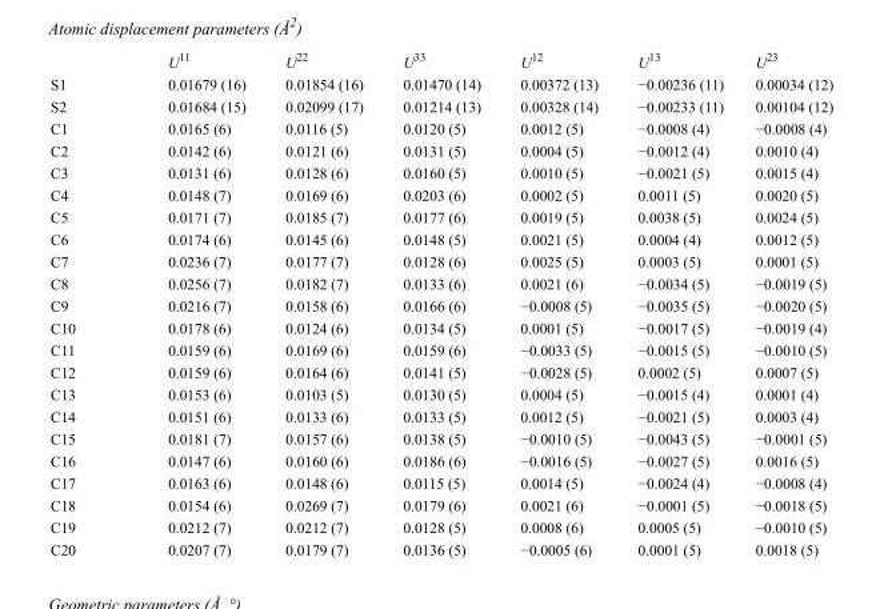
<table><thead><tr><td></td><td>U<sup>11</sup></td><td>U<sup>22</sup></td><td>U<sup>33</sup></td><td>U<sup>12</sup></td><td>U<sup>13</sup></td><td>U<sup>23</sup></td></tr></thead><tbody><tr><td>S1</td><td>0.01679 (16)</td><td>0.01854 (16)</td><td>0.01470 (14)</td><td>0.00372 (13)</td><td>−0.00236 (11)</td><td>0.00034 (12)</td></tr><tr><td>S2</td><td>0.01684 (15)</td><td>0.02099 (17)</td><td>0.01214 (13)</td><td>0.00328 (14)</td><td>−0.00233 (11)</td><td>0.00104 (12)</td></tr><tr><td>C1</td><td>0.0165 (6)</td><td>0.0116 (5)</td><td>0.0120 (5)</td><td>0.0012 (5)</td><td>−0.0008 (4)</td><td>−0.0008 (4)</td></tr><tr><td>C2</td><td>0.0142 (6)</td><td>0.0121 (6)</td><td>0.0131 (5)</td><td>0.0004 (5)</td><td>−0.0012 (4)</td><td>0.0010 (4)</td></tr><tr><td>C3</td><td>0.0131 (6)</td><td>0.0128 (6)</td><td>0.0160 (5)</td><td>0.0010 (5)</td><td>−0.0021 (5)</td><td>0.0015 (4)</td></tr><tr><td>C4</td><td>0.0148 (7)</td><td>0.0169 (6)</td><td>0.0203 (6)</td><td>0.0002 (5)</td><td>0.0011 (5)</td><td>0.0020 (5)</td></tr><tr><td>C5</td><td>0.0171 (7)</td><td>0.0185 (7)</td><td>0.0177 (6)</td><td>0.0019 (5)</td><td>0.0038 (5)</td><td>0.0024 (5)</td></tr><tr><td>C6</td><td>0.0174 (6)</td><td>0.0145 (6)</td><td>0.0148 (5)</td><td>0.0021 (5)</td><td>0.0004 (4)</td><td>0.0012 (5)</td></tr><tr><td>C7</td><td>0.0236 (7)</td><td>0.0177 (7)</td><td>0.0128 (6)</td><td>0.0025 (5)</td><td>0.0003 (5)</td><td>0.0001 (5)</td></tr><tr><td>C8</td><td>0.0256 (7)</td><td>0.0182 (7)</td><td>0.0133 (6)</td><td>0.0021 (6)</td><td>−0.0034 (5)</td><td>−0.0019 (5)</td></tr><tr><td>C9</td><td>0.0216 (7)</td><td>0.0158 (6)</td><td>0.0166 (6)</td><td>−0.0008 (5)</td><td>−0.0035 (5)</td><td>−0.0020 (5)</td></tr><tr><td>C10</td><td>0.0178 (6)</td><td>0.0124 (6)</td><td>0.0134 (5)</td><td>0.0001 (5)</td><td>−0.0017 (5)</td><td>−0.0019 (4)</td></tr><tr><td>C11</td><td>0.0159 (6)</td><td>0.0169 (6)</td><td>0.0159 (6)</td><td>−0.0033 (5)</td><td>−0.0015 (5)</td><td>−0.0010 (5)</td></tr><tr><td>C12</td><td>0.0159 (6)</td><td>0.0164 (6)</td><td>0.0141 (5)</td><td>−0.0028 (5)</td><td>0.0002 (5)</td><td>0.0007 (5)</td></tr><tr><td>C13</td><td>0.0153 (6)</td><td>0.0103 (5)</td><td>0.0130 (5)</td><td>0.0004 (5)</td><td>−0.0015 (4)</td><td>0.0001 (4)</td></tr><tr><td>C14</td><td>0.0151 (6)</td><td>0.0133 (6)</td><td>0.0133 (5)</td><td>0.0012 (5)</td><td>−0.0021 (5)</td><td>0.0003 (4)</td></tr><tr><td>C15</td><td>0.0181 (7)</td><td>0.0157 (6)</td><td>0.0138 (5)</td><td>−0.0010 (5)</td><td>−0.0043 (5)</td><td>−0.0001 (5)</td></tr><tr><td>C16</td><td>0.0147 (6)</td><td>0.0160 (6)</td><td>0.0186 (6)</td><td>−0.0016 (5)</td><td>−0.0027 (5)</td><td>0.0016 (5)</td></tr><tr><td>C17</td><td>0.0163 (6)</td><td>0.0148 (6)</td><td>0.0115 (5)</td><td>0.0014 (5)</td><td>−0.0024 (4)</td><td>−0.0008 (4)</td></tr><tr><td>C18</td><td>0.0154 (6)</td><td>0.0269 (7)</td><td>0.0179 (6)</td><td>0.0021 (6)</td><td>−0.0001 (5)</td><td>−0.0018 (5)</td></tr><tr><td>C19</td><td>0.0212 (7)</td><td>0.0212 (7)</td><td>0.0128 (5)</td><td>0.0008 (6)</td><td>0.0005 (5)</td><td>−0.0010 (5)</td></tr><tr><td>C20</td><td>0.0207 (7)</td><td>0.0179 (7)</td><td>0.0136 (5)</td><td>−0.0005 (6)</td><td>0.0001 (5)</td><td>0.0018 (5)</td></tr></tbody></table>